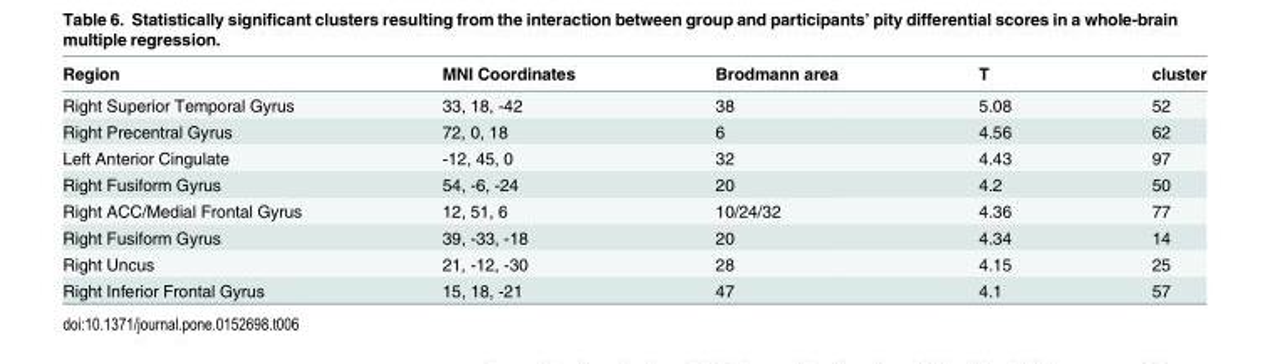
<table><thead><tr><td>Region</td><td>MNI Coordinates</td><td>Brodmann area</td><td>T</td><td>cluster</td></tr></thead><tbody><tr><td>Right Superior Temporal Gyrus</td><td>33, 18, -42</td><td>38</td><td>5.08</td><td>52</td></tr><tr><td>Right Precentral Gyrus</td><td>72, 0, 18</td><td>6</td><td>4.56</td><td>62</td></tr><tr><td>Left Anterior Cingulate</td><td>-12, 45, 0</td><td>32</td><td>4.43</td><td>97</td></tr><tr><td>Right Fusiform Gyrus</td><td>54, -6, -24</td><td>20</td><td>4.2</td><td>50</td></tr><tr><td>Right ACC/Medial Frontal Gyrus</td><td>12, 51, 6</td><td>10/24/32</td><td>4.36</td><td>77</td></tr><tr><td>Right Fusiform Gyrus</td><td>39, -33, -18</td><td>20</td><td>4.34</td><td>14</td></tr><tr><td>Right Uncus</td><td>21, -12, -30</td><td>28</td><td>4.15</td><td>25</td></tr><tr><td>Right Inferior Frontal Gyrus</td><td>15, 18, -21</td><td>47</td><td>4.1</td><td>57</td></tr></tbody></table>